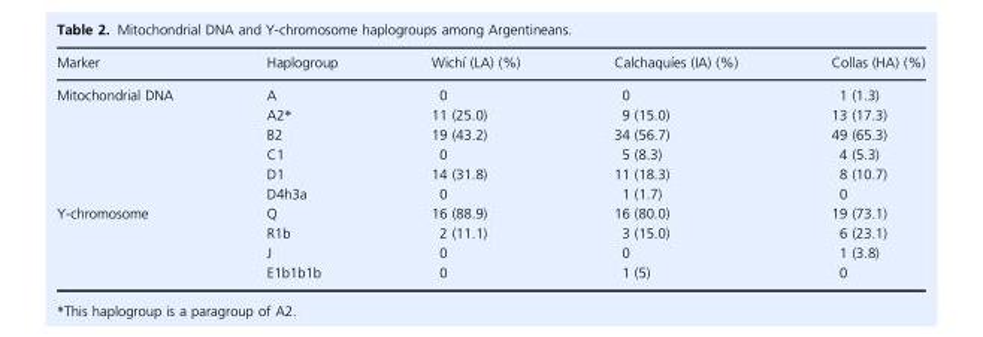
<table><thead><tr><td>Marker</td><td>Haplogroup</td><td>Wich�ı (LA) (%)</td><td>Calchaqu�ıes (IA) (%)</td><td>Collas (HA) (%)</td></tr></thead><tbody><tr><td rowspan="6">Mitochondrial DNA</td><td>A</td><td>0</td><td>0</td><td>1 (1.3)</td></tr><tr><td>A2*</td><td>11 (25.0)</td><td>9 (15.0)</td><td>13 (17.3)</td></tr><tr><td>B2</td><td>19 (43.2)</td><td>34 (56.7)</td><td>49 (65.3)</td></tr><tr><td>C1</td><td>0</td><td>5 (8.3)</td><td>4 (5.3)</td></tr><tr><td>D1</td><td>14 (31.8)</td><td>11 (18.3)</td><td>8 (10.7)</td></tr><tr><td>D4h3a</td><td>0</td><td>1 (1.7)</td><td>0</td></tr><tr><td rowspan="4">Y-chromosome</td><td>Q</td><td>16 (88.9)</td><td>16 (80.0)</td><td>19 (73.1)</td></tr><tr><td>R1b</td><td>2 (11.1)</td><td>3 (15.0)</td><td>6 (23.1)</td></tr><tr><td>J</td><td>0</td><td>0</td><td>1 (3.8)</td></tr><tr><td>E1b1b1b</td><td>0</td><td>1 (5)</td><td>0</td></tr></tbody></table>